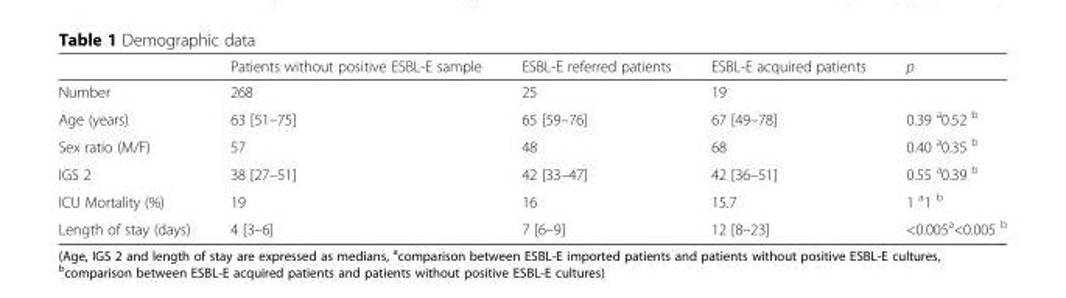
<table><thead><tr><td></td><td>Patients without positive ESBL-E sample</td><td>ESBL-E referred patients</td><td>ESBL-E acquired patients</td><td>p</td></tr></thead><tbody><tr><td>Number</td><td>268</td><td>25</td><td>19</td><td></td></tr><tr><td>Age (years)</td><td>63 [51–75]</td><td>65 [59–76]</td><td>67 [49–78]</td><td>0.39 <sup>a</sup>0.52 <sup>b</sup></td></tr><tr><td>Sex ratio (M/F)</td><td>57</td><td>48</td><td>68</td><td>0.40 <sup>a</sup>0.35 <sup>b</sup></td></tr><tr><td>IGS 2</td><td>38 [27–51]</td><td>42 [33–47]</td><td>42 [36–51]</td><td>0.55 <sup>a</sup>0.39 <sup>b</sup></td></tr><tr><td>ICU Mortality (%)</td><td>19</td><td>16</td><td>15.7</td><td>1 <sup>a</sup>1 <sup>b</sup></td></tr><tr><td>Length of stay (days)</td><td>4 [3–6]</td><td>7 [6–9]</td><td>12 [8–23]</td><td>&lt;0.005<sup>a</sup>&lt;0.005 <sup>b</sup></td></tr></tbody></table>